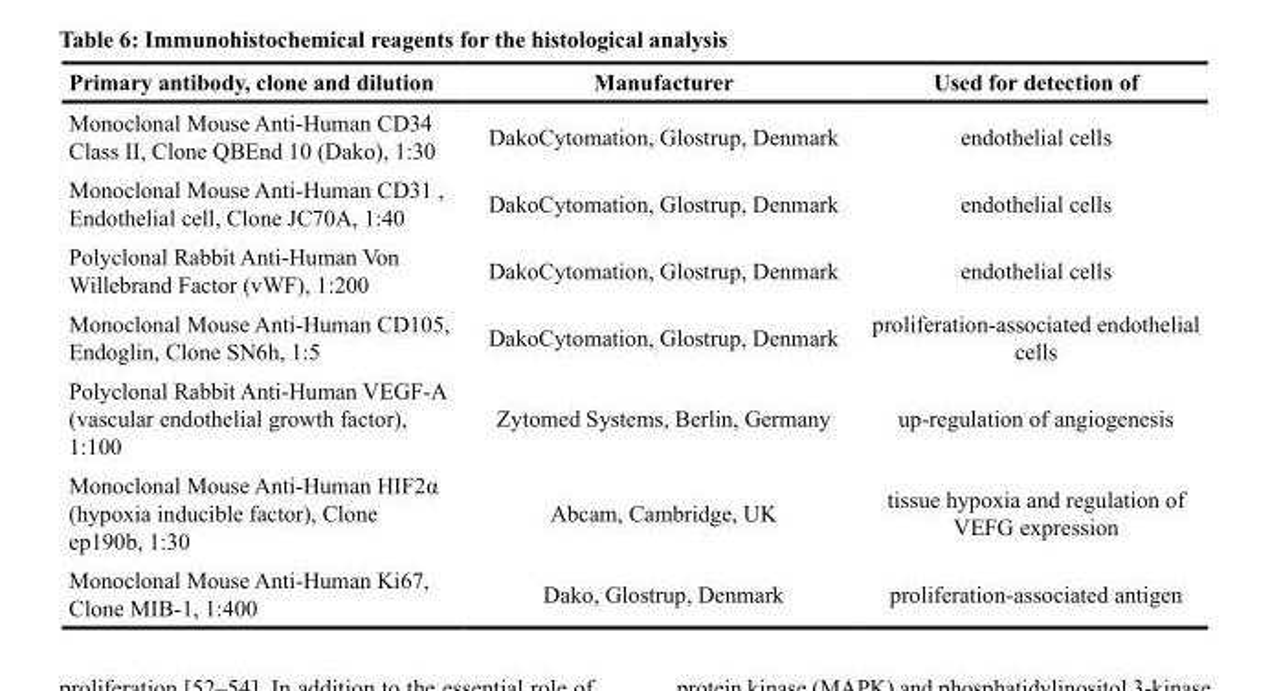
<table><thead><tr><td>Primary antibody, clone and dilution</td><td>Manufacturer</td><td>Used for detection of</td></tr></thead><tbody><tr><td>Monoclonal Mouse Anti-Human CD34 Class II, Clone QBEnd 10 (Dako), 1:30</td><td>DakoCytomation, Glostrup, Denmark</td><td>endothelial cells</td></tr><tr><td>Monoclonal Mouse Anti-Human CD31 , Endothelial cell, Clone JC70A, 1:40</td><td>DakoCytomation, Glostrup, Denmark</td><td>endothelial cells</td></tr><tr><td>Polyclonal Rabbit Anti-Human Von Willebrand Factor (vWF), 1:200</td><td>DakoCytomation, Glostrup, Denmark</td><td>endothelial cells</td></tr><tr><td>Monoclonal Mouse Anti-Human CD105, Endoglin, Clone SN6h, 1:5</td><td>DakoCytomation, Glostrup, Denmark</td><td>proliferation-associated endothelial cells</td></tr><tr><td>Polyclonal Rabbit Anti-Human VEGF-A (vascular endothelial growth factor), 1:100</td><td>Zytomed Systems, Berlin, Germany</td><td>up-regulation of angiogenesis</td></tr><tr><td>Monoclonal Mouse Anti-Human HIF2α (hypoxia inducible factor), Clone ep190b, 1:30</td><td>Abcam, Cambridge, UK</td><td>tissue hypoxia and regulation of VEFG expression</td></tr><tr><td>Monoclonal Mouse Anti-Human Ki67, Clone MIB-1, 1:400</td><td>Dako, Glostrup, Denmark</td><td>proliferation-associated antigen</td></tr></tbody></table>